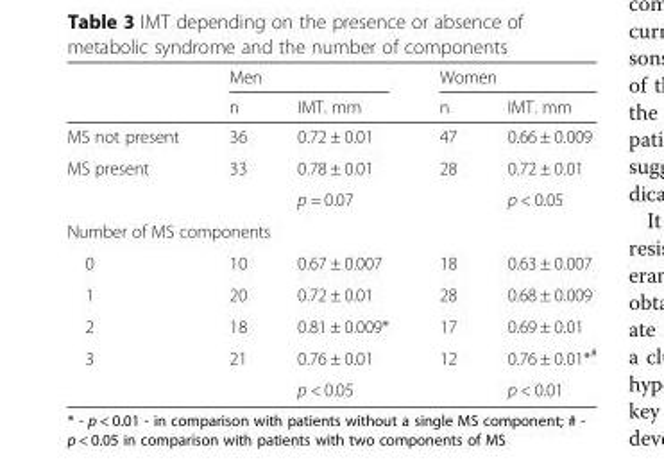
<table><thead><tr><td rowspan="2"></td><td colspan="2">Men</td><td colspan="2">Women</td></tr><tr><td>n</td><td>IMT. mm</td><td>n</td><td>IMT. mm</td></tr></thead><tbody><tr><td>MS not present</td><td>36</td><td>0.72 ± 0.01</td><td>47</td><td>0.66 ± 0.009</td></tr><tr><td rowspan="2">MS present</td><td>33</td><td>0.78 ± 0.01</td><td>28</td><td>0.72 ± 0.01</td></tr><tr><td></td><td>р = 0.07</td><td></td><td>р &lt; 0.05</td></tr><tr><td colspan="5">Number of MS components</td></tr><tr><td>0</td><td>10</td><td>0.67 ± 0.007</td><td>18</td><td>0.63 ± 0.007</td></tr><tr><td>1</td><td>20</td><td>0.72 ± 0.01</td><td>28</td><td>0.68 ± 0.009</td></tr><tr><td>2</td><td>18</td><td>0.81 ± 0.009*</td><td>17</td><td>0.69 ± 0.01</td></tr><tr><td rowspan="2">3</td><td>21</td><td>0.76 ± 0.01</td><td>12</td><td>0.76 ± 0.01*<sup>#</sup></td></tr><tr><td></td><td>р &lt; 0.05</td><td></td><td>р &lt; 0.01</td></tr></tbody></table>